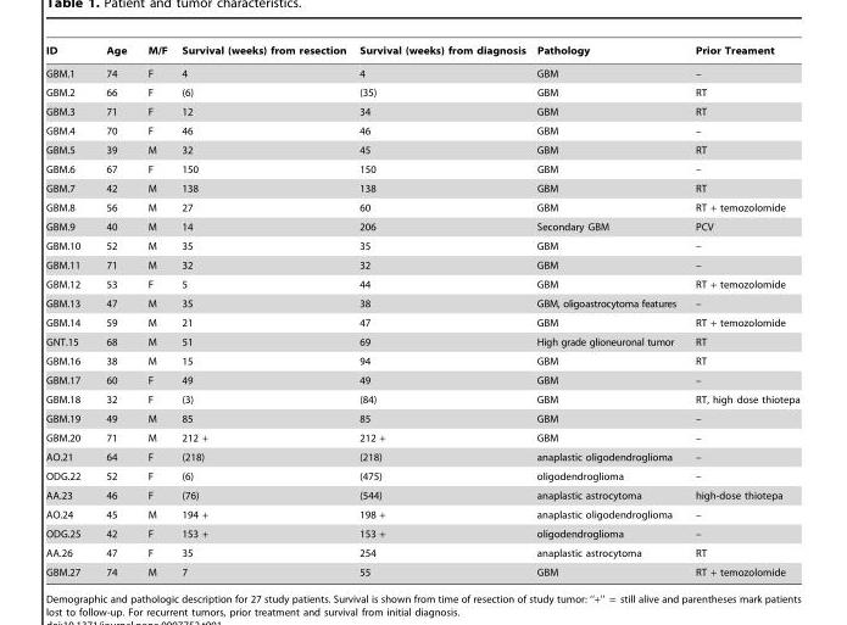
<table><thead><tr><td>ID</td><td>Age</td><td>M/F</td><td>Survival (weeks) from resection</td><td>Survival (weeks) from diagnosis</td><td>Pathology</td><td>Prior Treament</td></tr></thead><tbody><tr><td>GBM.1</td><td>74</td><td>F</td><td>4</td><td>4</td><td>GBM</td><td>–</td></tr><tr><td>GBM.2</td><td>66</td><td>F</td><td>(6)</td><td>(35)</td><td>GBM</td><td>RT</td></tr><tr><td>GBM.3</td><td>71</td><td>F</td><td>12</td><td>34</td><td>GBM</td><td>RT</td></tr><tr><td>GBM.4</td><td>70</td><td>F</td><td>46</td><td>46</td><td>GBM</td><td>–</td></tr><tr><td>GBM.5</td><td>39</td><td>M</td><td>32</td><td>45</td><td>GBM</td><td>RT</td></tr><tr><td>GBM.6</td><td>67</td><td>F</td><td>150</td><td>150</td><td>GBM</td><td>–</td></tr><tr><td>GBM.7</td><td>42</td><td>M</td><td>138</td><td>138</td><td>GBM</td><td>RT</td></tr><tr><td>GBM.8</td><td>56</td><td>M</td><td>27</td><td>60</td><td>GBM</td><td>RT + temozolomide</td></tr><tr><td>GBM.9</td><td>40</td><td>M</td><td>14</td><td>206</td><td>Secondary GBM</td><td>PCV</td></tr><tr><td>GBM.10</td><td>52</td><td>M</td><td>35</td><td>35</td><td>GBM</td><td>–</td></tr><tr><td>GBM.11</td><td>71</td><td>M</td><td>32</td><td>32</td><td>GBM</td><td>–</td></tr><tr><td>GBM.12</td><td>53</td><td>F</td><td>5</td><td>44</td><td>GBM</td><td>RT + temozolomide</td></tr><tr><td>GBM.13</td><td>47</td><td>M</td><td>35</td><td>38</td><td>GBM, oligoastrocytoma features</td><td>–</td></tr><tr><td>GBM.14</td><td>59</td><td>M</td><td>21</td><td>47</td><td>GBM</td><td>RT + temozolomide</td></tr><tr><td>GNT.15</td><td>68</td><td>M</td><td>51</td><td>69</td><td>High grade glioneuronal tumor</td><td>RT</td></tr><tr><td>GBM.16</td><td>38</td><td>M</td><td>15</td><td>94</td><td>GBM</td><td>RT</td></tr><tr><td>GBM.17</td><td>60</td><td>F</td><td>49</td><td>49</td><td>GBM</td><td>–</td></tr><tr><td>GBM.18</td><td>32</td><td>F</td><td>(3)</td><td>(84)</td><td>GBM</td><td>RT, high dose thiotepa</td></tr><tr><td>GBM.19</td><td>49</td><td>M</td><td>85</td><td>85</td><td>GBM</td><td>–</td></tr><tr><td>GBM.20</td><td>71</td><td>M</td><td>212 +</td><td>212 +</td><td>GBM</td><td>–</td></tr><tr><td>AO.21</td><td>64</td><td>F</td><td>(218)</td><td>(218)</td><td>anaplastic oligodendroglioma</td><td>–</td></tr><tr><td>ODG.22</td><td>52</td><td>F</td><td>(6)</td><td>(475)</td><td>oligodendroglioma</td><td>–</td></tr><tr><td>AA.23</td><td>46</td><td>F</td><td>(76)</td><td>(544)</td><td>anaplastic astrocytoma</td><td>high-dose thiotepa</td></tr><tr><td>AO.24</td><td>45</td><td>M</td><td>194 +</td><td>198 +</td><td>anaplastic oligodendroglioma</td><td>–</td></tr><tr><td>ODG.25</td><td>42</td><td>F</td><td>153 +</td><td>153 +</td><td>oligodendroglioma</td><td>–</td></tr><tr><td>AA.26</td><td>47</td><td>F</td><td>35</td><td>254</td><td>anaplastic astrocytoma</td><td>RT</td></tr><tr><td>GBM.27</td><td>74</td><td>M</td><td>7</td><td>55</td><td>GBM</td><td>RT + temozolomide</td></tr></tbody></table>